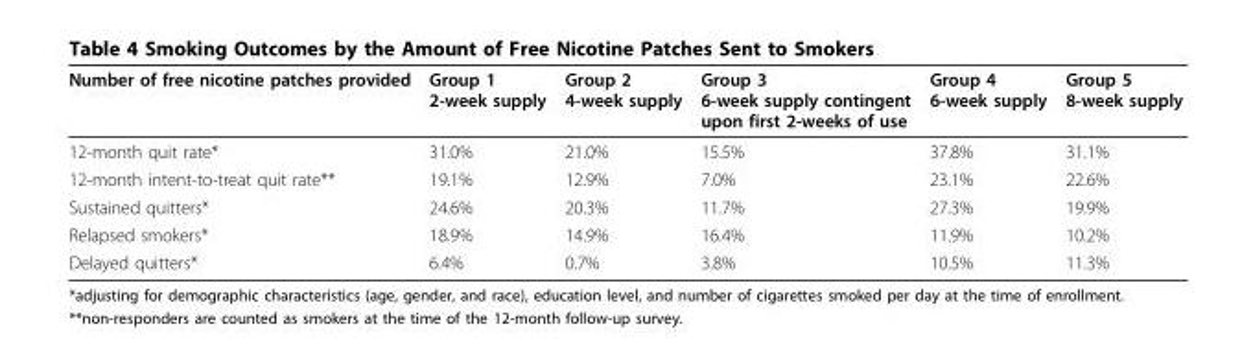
<table><thead><tr><td>Number of free nicotine patches provided</td><td>Group 1 2-week supply</td><td>Group 2 4-week supply</td><td>Group 3 6-week supply contingent upon first 2-weeks of use</td><td>Group 4 6-week supply</td><td>Group 5 8-week supply</td></tr></thead><tbody><tr><td>12-month quit rate*</td><td>31.0%</td><td>21.0%</td><td>15.5%</td><td>37.8%</td><td>31.1%</td></tr><tr><td>12-month intent-to-treat quit rate**</td><td>19.1%</td><td>12.9%</td><td>7.0%</td><td>23.1%</td><td>22.6%</td></tr><tr><td>Sustained quitters*</td><td>24.6%</td><td>20.3%</td><td>11.7%</td><td>27.3%</td><td>19.9%</td></tr><tr><td>Relapsed smokers*</td><td>18.9%</td><td>14.9%</td><td>16.4%</td><td>11.9%</td><td>10.2%</td></tr><tr><td>Delayed quitters*</td><td>6.4%</td><td>0.7%</td><td>3.8%</td><td>10.5%</td><td>11.3%</td></tr></tbody></table>